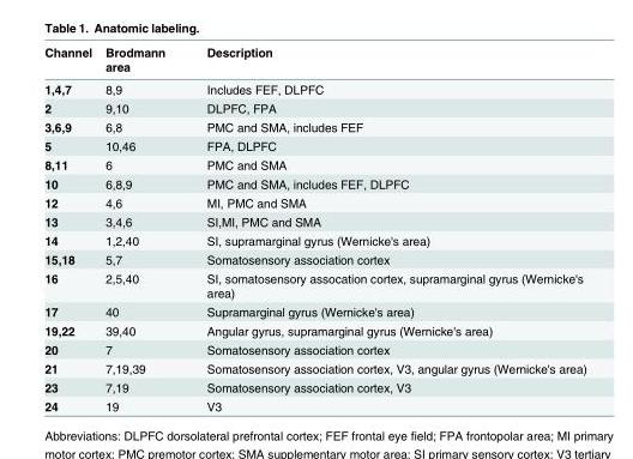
<table><thead><tr><td>Channel</td><td>Brodmann area</td><td>Description</td></tr></thead><tbody><tr><td>1,4,7</td><td>8,9</td><td>Includes FEF, DLPFC</td></tr><tr><td>2</td><td>9,10</td><td>DLPFC, FPA</td></tr><tr><td>3,6,9</td><td>6,8</td><td>PMC and SMA, includes FEF</td></tr><tr><td>5</td><td>10,46</td><td>FPA, DLPFC</td></tr><tr><td>8,11</td><td>6</td><td>PMC and SMA</td></tr><tr><td>10</td><td>6,8,9</td><td>PMC and SMA, includes FEF, DLPFC</td></tr><tr><td>12</td><td>4,6</td><td>MI, PMC and SMA</td></tr><tr><td>13</td><td>3,4,6</td><td>SI,MI, PMC and SMA</td></tr><tr><td>14</td><td>1,2,40</td><td>SI, supramarginal gyrus (Wernicke&#x27;s area)</td></tr><tr><td>15,18</td><td>5,7</td><td>Somatosensory association cortex</td></tr><tr><td>16</td><td>2,5,40</td><td>SI, somatosensory assocation cortex, supramarginal gyrus (Wernicke&#x27;s area)</td></tr><tr><td>17</td><td>40</td><td>Supramarginal gyrus (Wernicke&#x27;s area)</td></tr><tr><td>19,22</td><td>39,40</td><td>Angular gyrus, supramarginal gyrus (Wernicke&#x27;s area)</td></tr><tr><td>20</td><td>7</td><td>Somatosensory association cortex</td></tr><tr><td>21</td><td>7,19,39</td><td>Somatosensory association cortex, V3, angular gyrus (Wernicke&#x27;s area)</td></tr><tr><td>23</td><td>7,19</td><td>Somatosensory association cortex, V3</td></tr><tr><td>24</td><td>19</td><td>V3</td></tr></tbody></table>